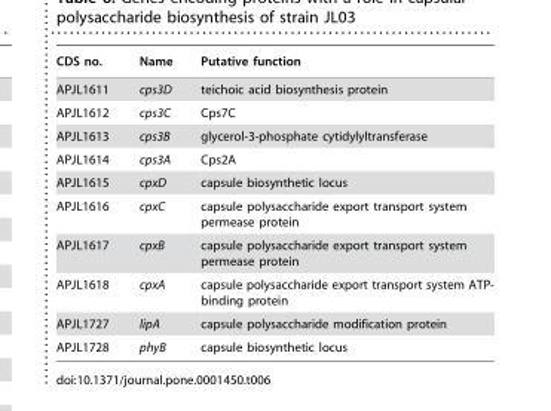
<table><thead><tr><td>CDS no.</td><td>Name</td><td>Putative function</td></tr></thead><tbody><tr><td>APJL1611</td><td>cps3D</td><td>teichoic acid biosynthesis protein</td></tr><tr><td>APJL1612</td><td>cps3C</td><td>Cps7C</td></tr><tr><td>APJL1613</td><td>cps3B</td><td>glycerol-3-phosphate cytidylyltransferase</td></tr><tr><td>APJL1614</td><td>cps3A</td><td>Cps2A</td></tr><tr><td>APJL1615</td><td>cpxD</td><td>capsule biosynthetic locus</td></tr><tr><td>APJL1616</td><td>cpxC</td><td>capsule polysaccharide export transport system permease protein</td></tr><tr><td>APJL1617</td><td>cpxB</td><td>capsule polysaccharide export transport system permease protein</td></tr><tr><td>APJL1618</td><td>cpxA</td><td>capsule polysaccharide export transport system ATP- binding protein</td></tr><tr><td>APJL1727</td><td>lipA</td><td>capsule polysaccharide modification protein</td></tr><tr><td>APJL1728</td><td>phyB</td><td>capsule biosynthetic locus</td></tr></tbody></table>